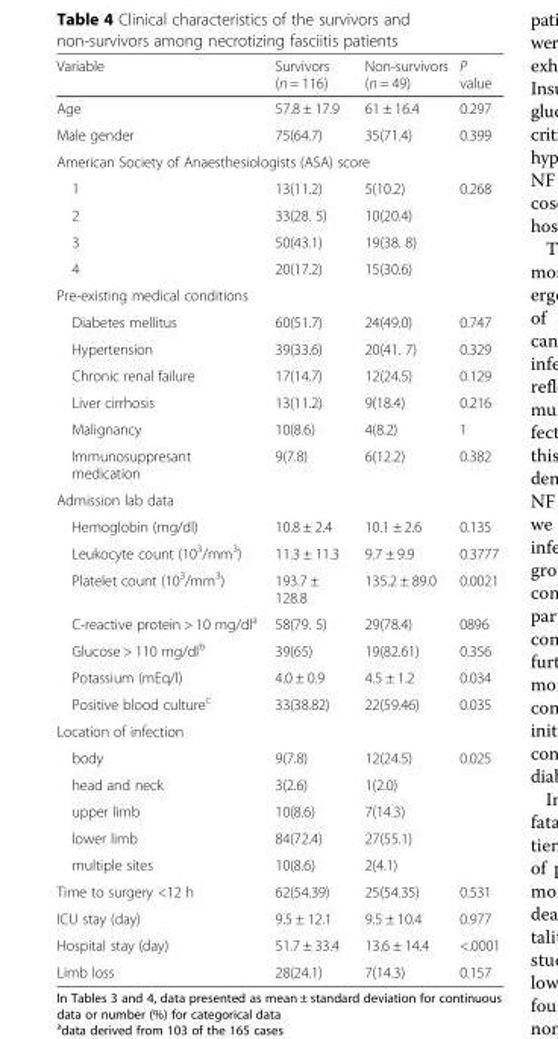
<table><thead><tr><td>Variable</td><td>Survivors (n = 116)</td><td>Non-survivors (n = 49)</td><td>P value</td></tr></thead><tbody><tr><td>Age</td><td>57.8 ± 17.9</td><td>61 ± 16.4</td><td>0.297</td></tr><tr><td>Male gender</td><td>75(64.7)</td><td>35(71.4)</td><td>0.399</td></tr><tr><td colspan="4">American Society of Anaesthesiologists (ASA) score</td></tr><tr><td>1</td><td>13(11.2)</td><td>5(10.2)</td><td>0.268</td></tr><tr><td>2</td><td>33(28. 5)</td><td>10(20.4)</td><td></td></tr><tr><td>3</td><td>50(43.1)</td><td>19(38. 8)</td><td></td></tr><tr><td>4</td><td>20(17.2)</td><td>15(30.6)</td><td></td></tr><tr><td colspan="4">Pre-existing medical conditions</td></tr><tr><td>Diabetes mellitus</td><td>60(51.7)</td><td>24(49.0)</td><td>0.747</td></tr><tr><td>Hypertension</td><td>39(33.6)</td><td>20(41. 7)</td><td>0.329</td></tr><tr><td>Chronic renal failure</td><td>17(14.7)</td><td>12(24.5)</td><td>0.129</td></tr><tr><td>Liver cirrhosis</td><td>13(11.2)</td><td>9(18.4)</td><td>0.216</td></tr><tr><td>Malignancy</td><td>10(8.6)</td><td>4(8.2)</td><td>1</td></tr><tr><td>Immunosuppresant medication</td><td>9(7.8)</td><td>6(12.2)</td><td>0.382</td></tr><tr><td colspan="4">Admission lab data</td></tr><tr><td>Hemoglobin (mg/dl)</td><td>10.8 ± 2.4</td><td>10.1 ± 2.6</td><td>0.135</td></tr><tr><td>Leukocyte count (10<sup>3</sup>/mm<sup>3</sup>)</td><td>11.3 ± 11.3</td><td>9.7 ± 9.9</td><td>0.3777</td></tr><tr><td>Platelet count (10<sup>3</sup>/mm<sup>3</sup>)</td><td>193.7 ± 128.8</td><td>135.2 ± 89.0</td><td>0.0021</td></tr><tr><td>C-reactive protein &gt; 10 mg/dl<sup>a</sup></td><td>58(79. 5)</td><td>29(78.4)</td><td>0896</td></tr><tr><td>Glucose &gt; 110 mg/dl<sup>b</sup></td><td>39(65)</td><td>19(82.61)</td><td>0.356</td></tr><tr><td>Potassium (mEq/l)</td><td>4.0 ± 0.9</td><td>4.5 ± 1.2</td><td>0.034</td></tr><tr><td>Positive blood culture<sup>c</sup></td><td>33(38.82)</td><td>22(59.46)</td><td>0.035</td></tr><tr><td colspan="4">Location of infection</td></tr><tr><td>body</td><td>9(7.8)</td><td>12(24.5)</td><td>0.025</td></tr><tr><td>head and neck</td><td>3(2.6)</td><td>1(2.0)</td><td></td></tr><tr><td>upper limb</td><td>10(8.6)</td><td>7(14.3)</td><td></td></tr><tr><td>lower limb</td><td>84(72.4)</td><td>27(55.1)</td><td></td></tr><tr><td>multiple sites</td><td>10(8.6)</td><td>2(4.1)</td><td></td></tr><tr><td>Time to surgery &lt;12 h</td><td>62(54.39)</td><td>25(54.35)</td><td>0.531</td></tr><tr><td>ICU stay (day)</td><td>9.5 ± 12.1</td><td>9.5 ± 10.4</td><td>0.977</td></tr><tr><td>Hospital stay (day)</td><td>51.7 ± 33.4</td><td>13.6 ± 14.4</td><td>&lt;.0001</td></tr><tr><td>Limb loss</td><td>28(24.1)</td><td>7(14.3)</td><td>0.157</td></tr></tbody></table>